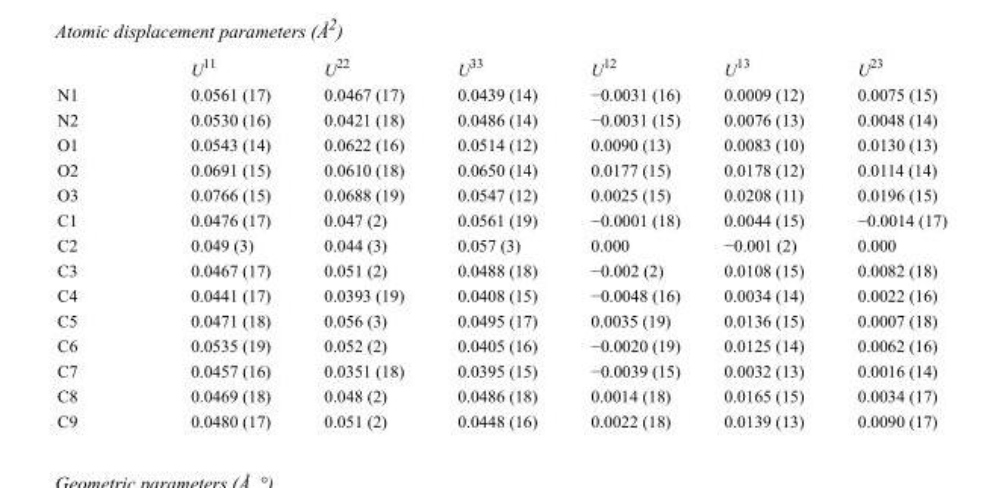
<table><thead><tr><td></td><td>U<sup>11</sup></td><td>U<sup>22</sup></td><td>U<sup>33</sup></td><td>U<sup>12</sup></td><td>U<sup>13</sup></td><td>U<sup>23</sup></td></tr></thead><tbody><tr><td>N1</td><td>0.0561 (17)</td><td>0.0467 (17)</td><td>0.0439 (14)</td><td>−0.0031 (16)</td><td>0.0009 (12)</td><td>0.0075 (15)</td></tr><tr><td>N2</td><td>0.0530 (16)</td><td>0.0421 (18)</td><td>0.0486 (14)</td><td>−0.0031 (15)</td><td>0.0076 (13)</td><td>0.0048 (14)</td></tr><tr><td>O1</td><td>0.0543 (14)</td><td>0.0622 (16)</td><td>0.0514 (12)</td><td>0.0090 (13)</td><td>0.0083 (10)</td><td>0.0130 (13)</td></tr><tr><td>O2</td><td>0.0691 (15)</td><td>0.0610 (18)</td><td>0.0650 (14)</td><td>0.0177 (15)</td><td>0.0178 (12)</td><td>0.0114 (14)</td></tr><tr><td>O3</td><td>0.0766 (15)</td><td>0.0688 (19)</td><td>0.0547 (12)</td><td>0.0025 (15)</td><td>0.0208 (11)</td><td>0.0196 (15)</td></tr><tr><td>C1</td><td>0.0476 (17)</td><td>0.047 (2)</td><td>0.0561 (19)</td><td>−0.0001 (18)</td><td>0.0044 (15)</td><td>−0.0014 (17)</td></tr><tr><td>C2</td><td>0.049 (3)</td><td>0.044 (3)</td><td>0.057 (3)</td><td>0.000</td><td>−0.001 (2)</td><td>0.000</td></tr><tr><td>C3</td><td>0.0467 (17)</td><td>0.051 (2)</td><td>0.0488 (18)</td><td>−0.002 (2)</td><td>0.0108 (15)</td><td>0.0082 (18)</td></tr><tr><td>C4</td><td>0.0441 (17)</td><td>0.0393 (19)</td><td>0.0408 (15)</td><td>−0.0048 (16)</td><td>0.0034 (14)</td><td>0.0022 (16)</td></tr><tr><td>C5</td><td>0.0471 (18)</td><td>0.056 (3)</td><td>0.0495 (17)</td><td>0.0035 (19)</td><td>0.0136 (15)</td><td>0.0007 (18)</td></tr><tr><td>C6</td><td>0.0535 (19)</td><td>0.052 (2)</td><td>0.0405 (16)</td><td>−0.0020 (19)</td><td>0.0125 (14)</td><td>0.0062 (16)</td></tr><tr><td>C7</td><td>0.0457 (16)</td><td>0.0351 (18)</td><td>0.0395 (15)</td><td>−0.0039 (15)</td><td>0.0032 (13)</td><td>0.0016 (14)</td></tr><tr><td>C8</td><td>0.0469 (18)</td><td>0.048 (2)</td><td>0.0486 (18)</td><td>0.0014 (18)</td><td>0.0165 (15)</td><td>0.0034 (17)</td></tr><tr><td>C9</td><td>0.0480 (17)</td><td>0.051 (2)</td><td>0.0448 (16)</td><td>0.0022 (18)</td><td>0.0139 (13)</td><td>0.0090 (17)</td></tr></tbody></table>